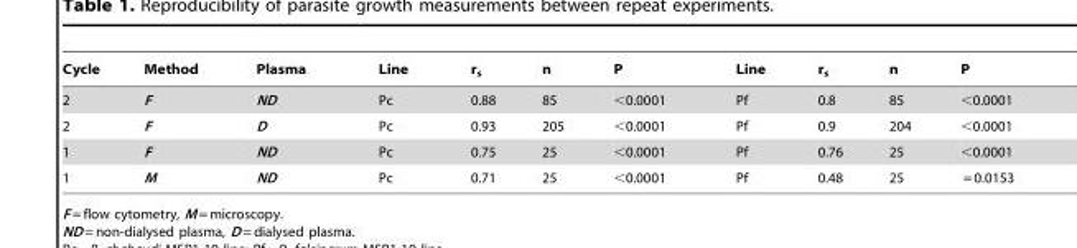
<table><thead><tr><td>Cycle</td><td>Method</td><td>Plasma</td><td>Line</td><td>r<sub>s</sub></td><td>n</td><td>P</td><td>Line</td><td>r<sub>s</sub></td><td>n</td><td>P</td></tr></thead><tbody><tr><td>2</td><td>F</td><td>ND</td><td>Pc</td><td>0.88</td><td>85</td><td>&lt;0.0001</td><td>Pf</td><td>0.8</td><td>85</td><td>&lt;0.0001</td></tr><tr><td>2</td><td>F</td><td>D</td><td>Pc</td><td>0.93</td><td>205</td><td>&lt;0.0001</td><td>Pf</td><td>0.9</td><td>204</td><td>&lt;0.0001</td></tr><tr><td>1</td><td>F</td><td>ND</td><td>Pc</td><td>0.75</td><td>25</td><td>&lt;0.0001</td><td>Pf</td><td>0.76</td><td>25</td><td>&lt;0.0001</td></tr><tr><td>1</td><td>M</td><td>ND</td><td>Pc</td><td>0.71</td><td>25</td><td>&lt;0.0001</td><td>Pf</td><td>0.48</td><td>25</td><td>= 0.0153</td></tr></tbody></table>